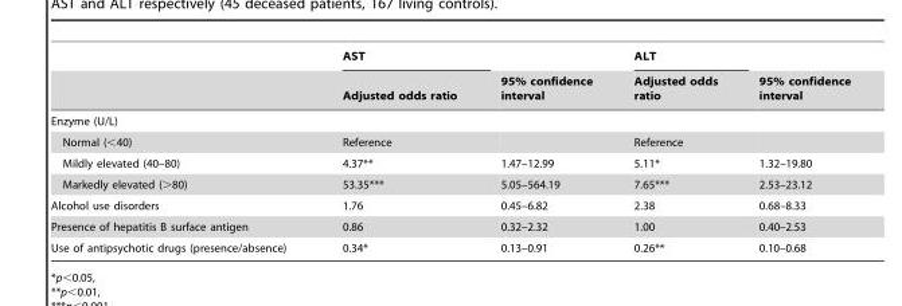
<table><thead><tr><td rowspan="2"></td><td rowspan="2">AST Adjusted odds ratio</td><td rowspan="2">95% confidence interval</td><td rowspan="2">ALT Adjusted odds ratio</td><td rowspan="2">95% confidence interval</td></tr><tr></tr></thead><tbody><tr><td colspan="5">Enzyme (U/L)</td></tr><tr><td>Normal (&lt;40)</td><td>Reference</td><td></td><td>Reference</td><td></td></tr><tr><td>Mildly elevated (40–80)</td><td>4.37**</td><td>1.47–12.99</td><td>5.11*</td><td>1.32–19.80</td></tr><tr><td>Markedly elevated (&gt;80)</td><td>53.35***</td><td>5.05–564.19</td><td>7.65***</td><td>2.53–23.12</td></tr><tr><td>Alcohol use disorders</td><td>1.76</td><td>0.45–6.82</td><td>2.38</td><td>0.68–8.33</td></tr><tr><td>Presence of hepatitis B surface antigen</td><td>0.86</td><td>0.32–2.32</td><td>1.00</td><td>0.40–2.53</td></tr><tr><td>Use of antipsychotic drugs (presence/absence)</td><td>0.34*</td><td>0.13–0.91</td><td>0.26**</td><td>0.10–0.68</td></tr></tbody></table>